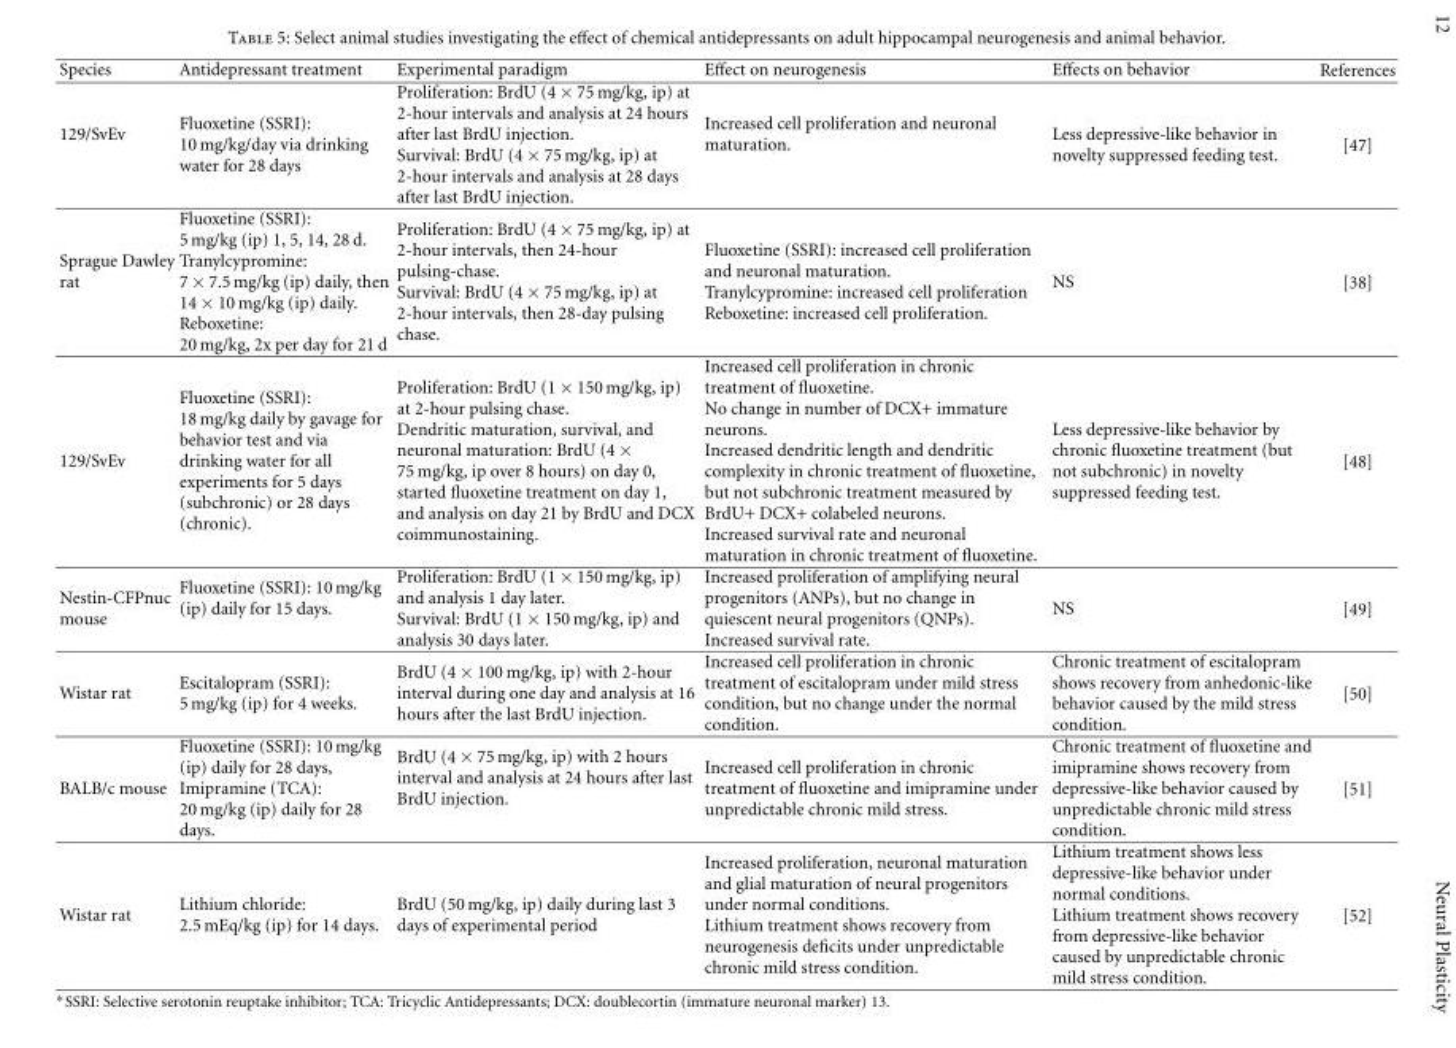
<table><thead><tr><td>Species</td><td>Antidepressant treatment</td><td>Experimental paradigm</td><td>Effect on neurogenesis</td><td>Effects on behavior</td><td>References</td></tr></thead><tbody><tr><td>129/SvEv</td><td>Fluoxetine (SSRI): 10 mg/kg/day via drinking water for 28 days</td><td>Proliferation: BrdU (4 × 75 mg/kg, ip) at 2-hour intervals and analysis at 24 hours after last BrdU injection. Survival: BrdU (4 × 75 mg/kg, ip) at 2-hour intervals and analysis at 28 days after last BrdU injection.</td><td>Increased cell proliferation and neuronal maturation.</td><td>Less depressive-like behavior in novelty suppressed feeding test.</td><td>[47]</td></tr><tr><td>Sprague Dawley rat</td><td>Fluoxetine (SSRI): 5 mg/kg (ip) 1, 5, 14, 28 d. Tranylcypromine: 7 × 7.5 mg/kg (ip) daily, then 14 × 10 mg/kg (ip) daily. Reboxetine: 20 mg/kg, 2x per day for 21 d</td><td>Proliferation: BrdU (4 × 75 mg/kg, ip) at 2-hour intervals, then 24-hour pulsing-chase. Survival: BrdU (4 × 75 mg/kg, ip) at 2-hour intervals, then 28-day pulsing chase.</td><td>Fluoxetine (SSRI): increased cell proliferation and neuronal maturation. Tranylcypromine: increased cell proliferation Reboxetine: increased cell proliferation.</td><td>NS</td><td>[38]</td></tr><tr><td>129/SvEv</td><td>Fluoxetine (SSRI): 18 mg/kg daily by gavage for behavior test and via drinking water for all experiments for 5 days (subchronic) or 28 days (chronic).</td><td>Proliferation: BrdU (1 × 150 mg/kg, ip) at 2-hour pulsing chase. Dendritic maturation, survival, and neuronal maturation: BrdU (4 × 75 mg/kg, ip over 8 hours) on day 0, started fluoxetine treatment on day 1, and analysis on day 21 by BrdU and DCX coimmunostaining.</td><td>Increased cell proliferation in chronic treatment of fluoxetine. No change in number of DCX+ immature neurons. Increased dendritic length and dendritic complexity in chronic treatment of fluoxetine, but not subchronic treatment measured by BrdU+ DCX+ colabeled neurons. Increased survival rate and neuronal maturation in chronic treatment of fluoxetine.</td><td>Less depressive-like behavior by chronic fluoxetine treatment (but not subchronic) in novelty suppressed feeding test.</td><td>[48]</td></tr><tr><td>Nestin-CFPnuc mouse</td><td>Fluoxetine (SSRI): 10 mg/kg (ip) daily for 15 days.</td><td>Proliferation: BrdU (1 × 150 mg/kg, ip) and analysis 1 day later. Survival: BrdU (1 × 150 mg/kg, ip) and analysis 30 days later.</td><td>Increased proliferation of amplifying neural progenitors (ANPs), but no change in quiescent neural progenitors (QNPs). Increased survival rate.</td><td>NS</td><td>[49]</td></tr><tr><td>Wistar rat</td><td>Escitalopram (SSRI): 5 mg/kg (ip) for 4 weeks.</td><td>BrdU (4 × 100 mg/kg, ip) with 2-hour interval during one day and analysis at 16 hours after the last BrdU injection.</td><td>Increased cell proliferation in chronic treatment of escitalopram under mild stress condition, but no change under the normal condition.</td><td>Chronic treatment of escitalopram shows recovery from anhedonic-like behavior caused by the mild stress condition.</td><td>[50]</td></tr><tr><td>BALB/c mouse</td><td>Fluoxetine (SSRI): 10 mg/kg (ip) daily for 28 days, Imipramine (TCA): 20 mg/kg (ip) daily for 28 days.</td><td>BrdU (4 × 75 mg/kg, ip) with 2 hours interval and analysis at 24 hours after last BrdU injection.</td><td>Increased cell proliferation in chronic treatment of fluoxetine and imipramine under unpredictable chronic mild stress.</td><td>Chronic treatment of fluoxetine and imipramine shows recovery from depressive-like behavior caused by unpredictable chronic mild stress condition.</td><td>[51]</td></tr><tr><td>Wistar rat</td><td>Lithium chloride: 2.5 mEq/kg (ip) for 14 days.</td><td>BrdU (50 mg/kg, ip) daily during last 3 days of experimental period</td><td>Increased proliferation, neuronal maturation and glial maturation of neural progenitors under normal conditions. Lithium treatment shows recovery from neurogenesis deficits under unpredictable chronic mild stress condition.</td><td>Lithium treatment shows less depressive-like behavior under normal conditions. Lithium treatment shows recovery from depressive-like behavior caused by unpredictable chronic mild stress condition.</td><td>[52]</td></tr></tbody></table>